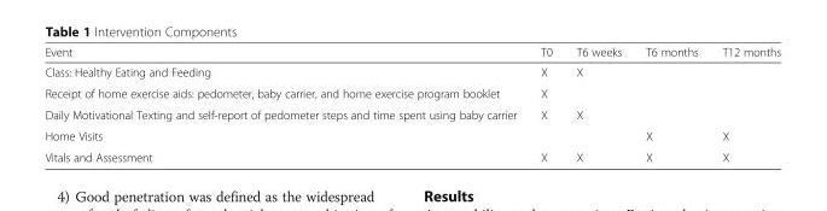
<table><thead><tr><td>Event</td><td>T0</td><td>T6 weeks</td><td>T6 months</td><td>T12 months</td></tr></thead><tbody><tr><td>Class: Healthy Eating and Feeding</td><td>X</td><td>X</td><td></td><td></td></tr><tr><td>Receipt of home exercise aids: pedometer, baby carrier, and home exercise program booklet</td><td>X</td><td></td><td></td><td></td></tr><tr><td>Daily Motivational Texting and self-report of pedometer steps and time spent using baby carrier</td><td>X</td><td>X</td><td></td><td></td></tr><tr><td>Home Visits</td><td></td><td></td><td>X</td><td>X</td></tr><tr><td>Vitals and Assessment</td><td>X</td><td>X</td><td>X</td><td>X</td></tr></tbody></table>